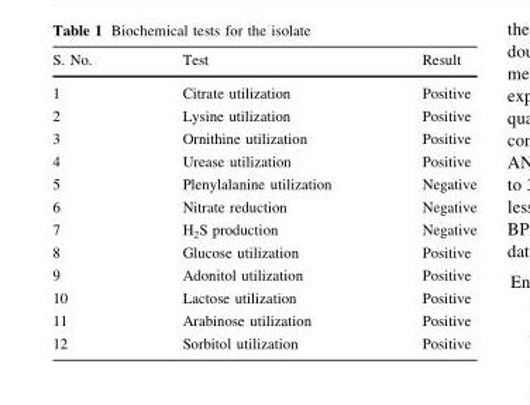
<table><thead><tr><td>S. No.</td><td>Test</td><td>Result</td></tr></thead><tbody><tr><td>1</td><td>Citrate utilization</td><td>Positive</td></tr><tr><td>2</td><td>Lysine utilization</td><td>Positive</td></tr><tr><td>3</td><td>Ornithine utilization</td><td>Positive</td></tr><tr><td>4</td><td>Urease utilization</td><td>Positive</td></tr><tr><td>5</td><td>Plenylalanine utilization</td><td>Negative</td></tr><tr><td>6</td><td>Nitrate reduction</td><td>Negative</td></tr><tr><td>7</td><td>H<sub>2</sub>S production</td><td>Negative</td></tr><tr><td>8</td><td>Glucose utilization</td><td>Positive</td></tr><tr><td>9</td><td>Adonitol utilization</td><td>Positive</td></tr><tr><td>10</td><td>Lactose utilization</td><td>Positive</td></tr><tr><td>11</td><td>Arabinose utilization</td><td>Positive</td></tr><tr><td>12</td><td>Sorbitol utilization</td><td>Positive</td></tr></tbody></table>